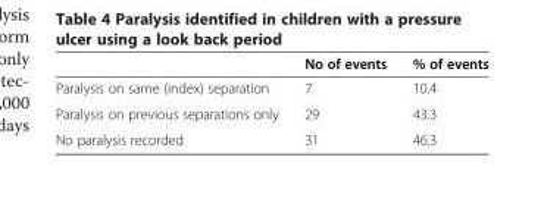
<table><thead><tr><td></td><td>No of events</td><td>% of events</td></tr></thead><tbody><tr><td>Paralysis on same (index) separation</td><td>7</td><td>10.4</td></tr><tr><td>Paralysis on previous separations only</td><td>29</td><td>43.3</td></tr><tr><td>No paralysis recorded</td><td>31</td><td>46.3</td></tr></tbody></table>